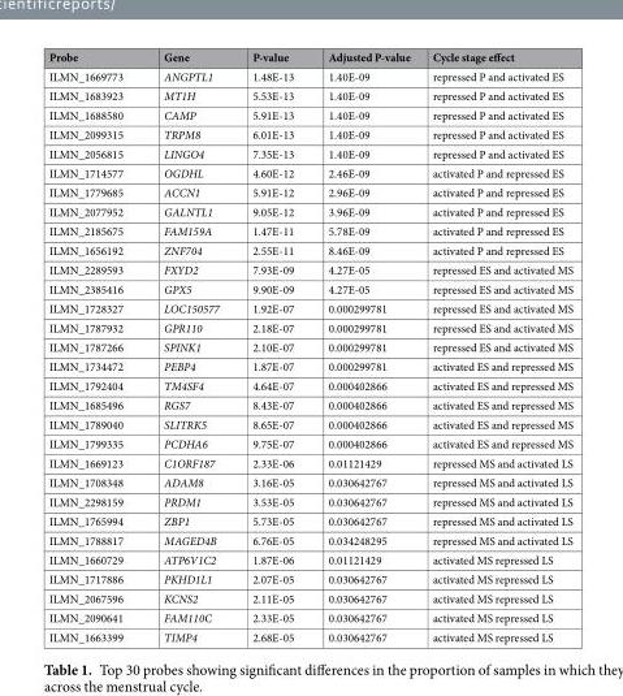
<table><thead><tr><td>Probe</td><td>Gene</td><td>P-value</td><td>Adjusted P-value</td><td>Cycle stage effect</td></tr></thead><tbody><tr><td>ILMN_1669773</td><td>ANGPTL1</td><td>1.48E-13</td><td>1.40E-09</td><td>repressed P and activated ES</td></tr><tr><td>ILMN_1683923</td><td>MT1H</td><td>5.53E-13</td><td>1.40E-09</td><td>repressed P and activated ES</td></tr><tr><td>ILMN_1688580</td><td>CAMP</td><td>5.91E-13</td><td>1.40E-09</td><td>repressed P and activated ES</td></tr><tr><td>ILMN_2099315</td><td>TRPM8</td><td>6.01E-13</td><td>1.40E-09</td><td>repressed P and activated ES</td></tr><tr><td>ILMN_2056815</td><td>LINGO4</td><td>7.35E-13</td><td>1.40E-09</td><td>repressed P and activated ES</td></tr><tr><td>ILMN_1714577</td><td>OGDHL</td><td>4.60E-12</td><td>2.46E-09</td><td>activated P and repressed ES</td></tr><tr><td>ILMN_1779685</td><td>ACCN1</td><td>5.91E-12</td><td>2.96E-09</td><td>activated P and repressed ES</td></tr><tr><td>ILMN_2077952</td><td>GALNTL1</td><td>9.05E-12</td><td>3.96E-09</td><td>activated P and repressed ES</td></tr><tr><td>ILMN_2185675</td><td>FAM159A</td><td>1.47E-11</td><td>5.78E-09</td><td>activated P and repressed ES</td></tr><tr><td>ILMN_1656192</td><td>ZNF704</td><td>2.55E-11</td><td>8.46E-09</td><td>activated P and repressed ES</td></tr><tr><td>ILMN_2289593</td><td>FXYD2</td><td>7.93E-09</td><td>4.27E-05</td><td>repressed ES and activated MS</td></tr><tr><td>ILMN_2385416</td><td>GPX5</td><td>9.90E-09</td><td>4.27E-05</td><td>repressed ES and activated MS</td></tr><tr><td>ILMN_1728327</td><td>LOC150577</td><td>1.92E-07</td><td>0.000299781</td><td>repressed ES and activated MS</td></tr><tr><td>ILMN_1787932</td><td>GPR110</td><td>2.18E-07</td><td>0.000299781</td><td>repressed ES and activated MS</td></tr><tr><td>ILMN_1787266</td><td>SPINK1</td><td>2.10E-07</td><td>0.000299781</td><td>repressed ES and activated MS</td></tr><tr><td>ILMN_1734472</td><td>PEBP4</td><td>1.87E-07</td><td>0.000299781</td><td>activated ES and repressed MS</td></tr><tr><td>ILMN_1792404</td><td>TM4SF4</td><td>4.64E-07</td><td>0.000402866</td><td>activated ES and repressed MS</td></tr><tr><td>ILMN_1685496</td><td>RGS7</td><td>8.43E-07</td><td>0.000402866</td><td>activated ES and repressed MS</td></tr><tr><td>ILMN_1789040</td><td>SLITRK5</td><td>8.65E-07</td><td>0.000402866</td><td>activated ES and repressed MS</td></tr><tr><td>ILMN_1799335</td><td>PCDHA6</td><td>9.75E-07</td><td>0.000402866</td><td>activated ES and repressed MS</td></tr><tr><td>ILMN_1669123</td><td>C1ORF187</td><td>2.33E-06</td><td>0.01121429</td><td>repressed MS and activated LS</td></tr><tr><td>ILMN_1708348</td><td>ADAM8</td><td>3.16E-05</td><td>0.030642767</td><td>repressed MS and activated LS</td></tr><tr><td>ILMN_2298159</td><td>PRDM1</td><td>3.53E-05</td><td>0.030642767</td><td>repressed MS and activated LS</td></tr><tr><td>ILMN_1765994</td><td>ZBP1</td><td>5.73E-05</td><td>0.030642767</td><td>repressed MS and activated LS</td></tr><tr><td>ILMN_1788817</td><td>MAGED4B</td><td>6.76E-05</td><td>0.034248295</td><td>repressed MS and activated LS</td></tr><tr><td>ILMN_1660729</td><td>ATP6V1C2</td><td>1.87E-06</td><td>0.01121429</td><td>activated MS repressed LS</td></tr><tr><td>ILMN_1717886</td><td>PKHD1L1</td><td>2.07E-05</td><td>0.030642767</td><td>activated MS repressed LS</td></tr><tr><td>ILMN_2067596</td><td>KCNS2</td><td>2.11E-05</td><td>0.030642767</td><td>activated MS repressed LS</td></tr><tr><td>ILMN_2090641</td><td>FAM110C</td><td>2.33E-05</td><td>0.030642767</td><td>activated MS repressed LS</td></tr><tr><td>ILMN_1663399</td><td>TIMP4</td><td>2.68E-05</td><td>0.030642767</td><td>activated MS repressed LS</td></tr></tbody></table>